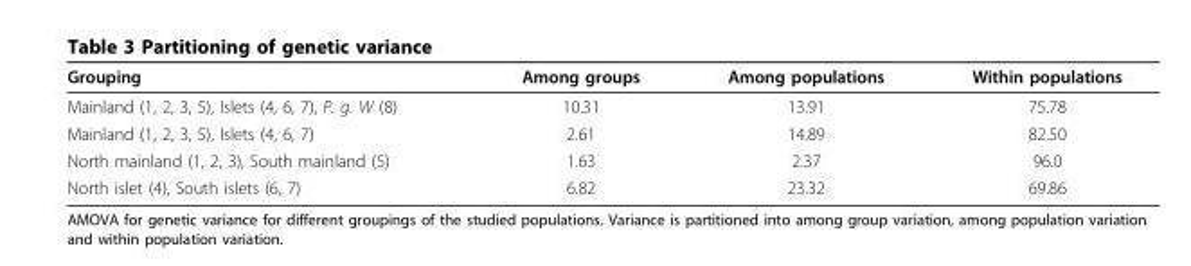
<table><thead><tr><td>Grouping</td><td>Among groups</td><td>Among populations</td><td>Within populations</td></tr></thead><tbody><tr><td>Mainland (1, 2, 3, 5), Islets (4, 6, 7), P. g. W (8)</td><td>10.31</td><td>13.91</td><td>75.78</td></tr><tr><td>Mainland (1, 2, 3, 5), Islets (4, 6, 7)</td><td>2.61</td><td>14.89</td><td>82.50</td></tr><tr><td>North mainland (1, 2, 3), South mainland (5)</td><td>1.63</td><td>2.37</td><td>96.0</td></tr><tr><td>North islet (4), South islets (6, 7)</td><td>6.82</td><td>23.32</td><td>69.86</td></tr></tbody></table>